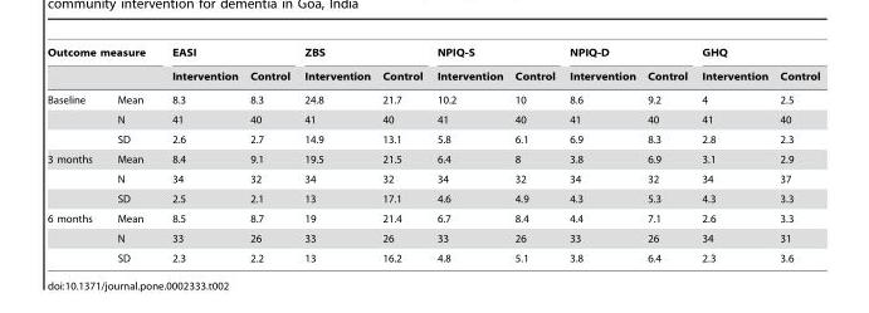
<table><thead><tr><td colspan="2">Outcome measure</td><td colspan="2">EASI</td><td colspan="2">ZBS</td><td colspan="2">NPIQ-S</td><td colspan="2">NPIQ-D</td><td colspan="2">GHQ</td></tr><tr><td></td><td></td><td>Intervention</td><td>Control</td><td>Intervention</td><td>Control</td><td>Intervention</td><td>Control</td><td>Intervention</td><td>Control</td><td>Intervention</td><td>Control</td></tr></thead><tbody><tr><td rowspan="3">Baseline</td><td>Mean</td><td>8.3</td><td>8.3</td><td>24.8</td><td>21.7</td><td>10.2</td><td>10</td><td>8.6</td><td>9.2</td><td>4</td><td>2.5</td></tr><tr><td>N</td><td>41</td><td>40</td><td>41</td><td>40</td><td>41</td><td>40</td><td>41</td><td>40</td><td>41</td><td>40</td></tr><tr><td>SD</td><td>2.6</td><td>2.7</td><td>14.9</td><td>13.1</td><td>5.8</td><td>6.1</td><td>6.9</td><td>8.3</td><td>2.8</td><td>2.3</td></tr><tr><td rowspan="3">3 months</td><td>Mean</td><td>8.4</td><td>9.1</td><td>19.5</td><td>21.5</td><td>6.4</td><td>8</td><td>3.8</td><td>6.9</td><td>3.1</td><td>2.9</td></tr><tr><td>N</td><td>34</td><td>32</td><td>34</td><td>32</td><td>34</td><td>32</td><td>34</td><td>32</td><td>34</td><td>37</td></tr><tr><td>SD</td><td>2.5</td><td>2.1</td><td>13</td><td>17.1</td><td>4.6</td><td>4.9</td><td>4.3</td><td>5.3</td><td>4.3</td><td>3.3</td></tr><tr><td rowspan="3">6 months</td><td>Mean</td><td>8.5</td><td>8.7</td><td>19</td><td>21.4</td><td>6.7</td><td>8.4</td><td>4.4</td><td>7.1</td><td>2.6</td><td>3.3</td></tr><tr><td>N</td><td>33</td><td>26</td><td>33</td><td>26</td><td>33</td><td>26</td><td>33</td><td>26</td><td>34</td><td>31</td></tr><tr><td>SD</td><td>2.3</td><td>2.2</td><td>13</td><td>16.2</td><td>4.8</td><td>5.1</td><td>3.8</td><td>6.4</td><td>2.3</td><td>3.6</td></tr></tbody></table>